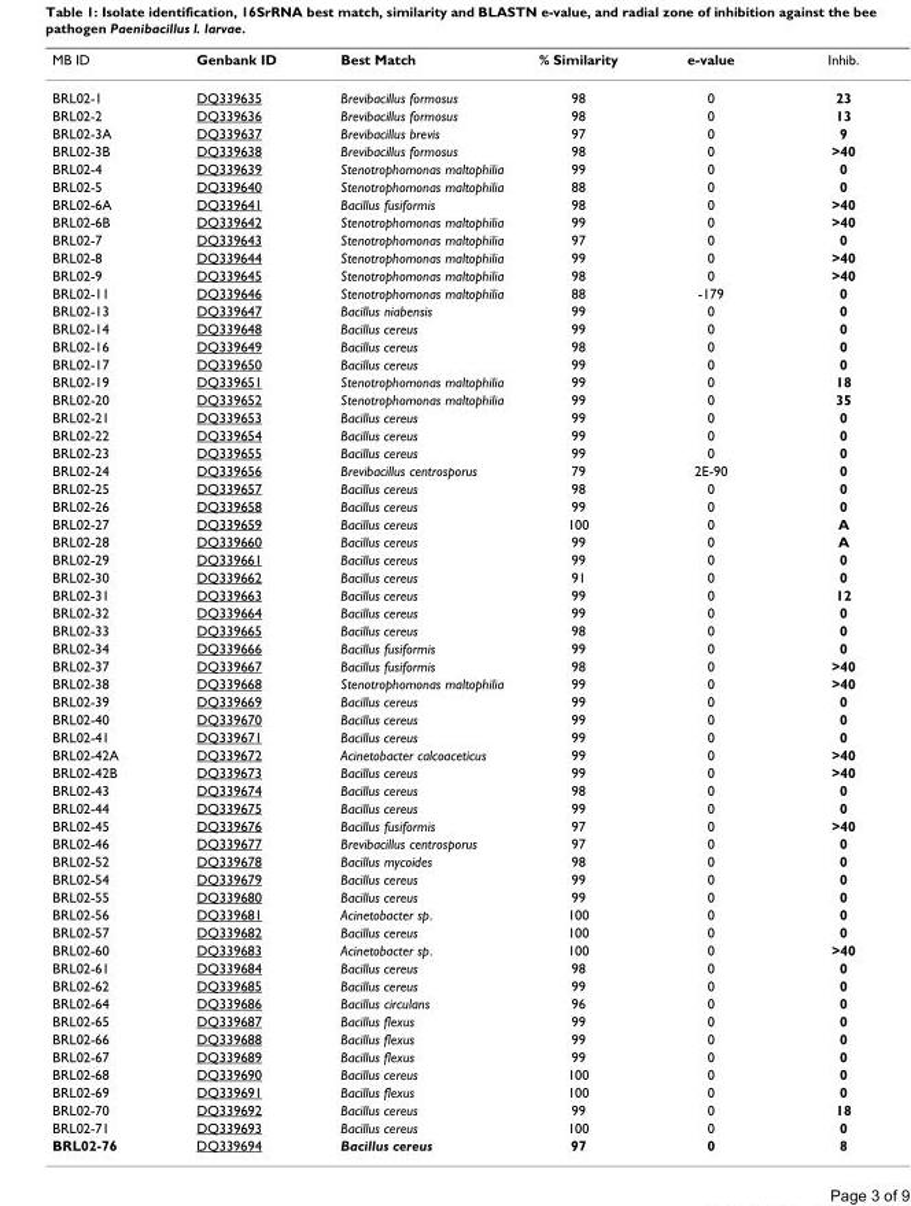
<table><thead><tr><td>MB ID</td><td>Genbank ID</td><td>Best Match</td><td>% Similarity</td><td>e-value</td><td>Inhib.</td></tr></thead><tbody><tr><td>BRL02-1</td><td>DQ339635</td><td>Brevibacillus formosus</td><td>98</td><td>0</td><td>23</td></tr><tr><td>BRL02-2</td><td>DQ339636</td><td>Brevibacillus formosus</td><td>98</td><td>0</td><td>13</td></tr><tr><td>BRL02-3A</td><td>DQ339637</td><td>Brevibacillus brevis</td><td>97</td><td>0</td><td>9</td></tr><tr><td>BRL02-3B</td><td>DQ339638</td><td>Brevibacillus formosus</td><td>98</td><td>0</td><td>&gt;40</td></tr><tr><td>BRL02-4</td><td>DQ339639</td><td>Stenotrophomonas maltophilia</td><td>99</td><td>0</td><td>0</td></tr><tr><td>BRL02-5</td><td>DQ339640</td><td>Stenotrophomonas maltophilia</td><td>88</td><td>0</td><td>0</td></tr><tr><td>BRL02-6A</td><td>DQ339641</td><td>Bacillus fusiformis</td><td>98</td><td>0</td><td>&gt;40</td></tr><tr><td>BRL02-6B</td><td>DQ339642</td><td>Stenotrophomonas maltophilia</td><td>99</td><td>0</td><td>&gt;40</td></tr><tr><td>BRL02-7</td><td>DQ339643</td><td>Stenotrophomonas maltophilia</td><td>97</td><td>0</td><td>0</td></tr><tr><td>BRL02-8</td><td>DQ339644</td><td>Stenotrophomonas maltophilia</td><td>99</td><td>0</td><td>&gt;40</td></tr><tr><td>BRL02-9</td><td>DQ339645</td><td>Stenotrophomonas maltophilia</td><td>98</td><td>0</td><td>&gt;40</td></tr><tr><td>BRL02-11</td><td>DQ339646</td><td>Stenotrophomonas maltophilia</td><td>88</td><td>-179</td><td>0</td></tr><tr><td>BRL02-13</td><td>DQ339647</td><td>Bacillus niabensis</td><td>99</td><td>0</td><td>0</td></tr><tr><td>BRL02-14</td><td>DQ339648</td><td>Bacillus cereus</td><td>99</td><td>0</td><td>0</td></tr><tr><td>BRL02-16</td><td>DQ339649</td><td>Bacillus cereus</td><td>98</td><td>0</td><td>0</td></tr><tr><td>BRL02-17</td><td>DQ339650</td><td>Bacillus cereus</td><td>99</td><td>0</td><td>0</td></tr><tr><td>BRL02-19</td><td>DQ339651</td><td>Stenotrophomonas maltophilia</td><td>99</td><td>0</td><td>18</td></tr><tr><td>BRL02-20</td><td>DQ339652</td><td>Stenotrophomonas maltophilia</td><td>99</td><td>0</td><td>35</td></tr><tr><td>BRL02-21</td><td>DQ339653</td><td>Bacillus cereus</td><td>99</td><td>0</td><td>0</td></tr><tr><td>BRL02-22</td><td>DQ339654</td><td>Bacillus cereus</td><td>99</td><td>0</td><td>0</td></tr><tr><td>BRL02-23</td><td>DQ339655</td><td>Bacillus cereus</td><td>99</td><td>0</td><td>0</td></tr><tr><td>BRL02-24</td><td>DQ339656</td><td>Brevibacillus centrosporus</td><td>79</td><td>2E-90</td><td>0</td></tr><tr><td>BRL02-25</td><td>DQ339657</td><td>Bacillus cereus</td><td>98</td><td>0</td><td>0</td></tr><tr><td>BRL02-26</td><td>DQ339658</td><td>Bacillus cereus</td><td>99</td><td>0</td><td>0</td></tr><tr><td>BRL02-27</td><td>DQ339659</td><td>Bacillus cereus</td><td>100</td><td>0</td><td>A</td></tr><tr><td>BRL02-28</td><td>DQ339660</td><td>Bacillus cereus</td><td>99</td><td>0</td><td>A</td></tr><tr><td>BRL02-29</td><td>DQ339661</td><td>Bacillus cereus</td><td>99</td><td>0</td><td>0</td></tr><tr><td>BRL02-30</td><td>DQ339662</td><td>Bacillus cereus</td><td>91</td><td>0</td><td>0</td></tr><tr><td>BRL02-31</td><td>DQ339663</td><td>Bacillus cereus</td><td>99</td><td>0</td><td>12</td></tr><tr><td>BRL02-32</td><td>DQ339664</td><td>Bacillus cereus</td><td>99</td><td>0</td><td>0</td></tr><tr><td>BRL02-33</td><td>DQ339665</td><td>Bacillus cereus</td><td>98</td><td>0</td><td>0</td></tr><tr><td>BRL02-34</td><td>DQ339666</td><td>Bacillus fusiformis</td><td>99</td><td>0</td><td>0</td></tr><tr><td>BRL02-37</td><td>DQ339667</td><td>Bacillus fusiformis</td><td>98</td><td>0</td><td>&gt;40</td></tr><tr><td>BRL02-38</td><td>DQ339668</td><td>Stenotrophomonas maltophilia</td><td>99</td><td>0</td><td>&gt;40</td></tr><tr><td>BRL02-39</td><td>DQ339669</td><td>Bacillus cereus</td><td>99</td><td>0</td><td>0</td></tr><tr><td>BRL02-40</td><td>DQ339670</td><td>Bacillus cereus</td><td>99</td><td>0</td><td>0</td></tr><tr><td>BRL02-41</td><td>DQ339671</td><td>Bacillus cereus</td><td>99</td><td>0</td><td>0</td></tr><tr><td>BRL02-42A</td><td>DQ339672</td><td>Acinetobacter calcoaceticus</td><td>99</td><td>0</td><td>&gt;40</td></tr><tr><td>BRL02-42B</td><td>DQ339673</td><td>Bacillus cereus</td><td>99</td><td>0</td><td>&gt;40</td></tr><tr><td>BRL02-43</td><td>DQ339674</td><td>Bacillus cereus</td><td>98</td><td>0</td><td>0</td></tr><tr><td>BRL02-44</td><td>DQ339675</td><td>Bacillus cereus</td><td>99</td><td>0</td><td>0</td></tr><tr><td>BRL02-45</td><td>DQ339676</td><td>Bacillus fusiformis</td><td>97</td><td>0</td><td>&gt;40</td></tr><tr><td>BRL02-46</td><td>DQ339677</td><td>Brevibacillus centrosporus</td><td>97</td><td>0</td><td>0</td></tr><tr><td>BRL02-52</td><td>DQ339678</td><td>Bacillus mycoides</td><td>98</td><td>0</td><td>0</td></tr><tr><td>BRL02-54</td><td>DQ339679</td><td>Bacillus cereus</td><td>99</td><td>0</td><td>0</td></tr><tr><td>BRL02-55</td><td>DQ339680</td><td>Bacillus cereus</td><td>99</td><td>0</td><td>0</td></tr><tr><td>BRL02-56</td><td>DQ339681</td><td>Acinetobacter sp.</td><td>100</td><td>0</td><td>0</td></tr><tr><td>BRL02-57</td><td>DQ339682</td><td>Bacillus cereus</td><td>100</td><td>0</td><td>0</td></tr><tr><td>BRL02-60</td><td>DQ339683</td><td>Acinetobacter sp.</td><td>100</td><td>0</td><td>&gt;40</td></tr><tr><td>BRL02-61</td><td>DQ339684</td><td>Bacillus cereus</td><td>98</td><td>0</td><td>0</td></tr><tr><td>BRL02-62</td><td>DQ339685</td><td>Bacillus cereus</td><td>99</td><td>0</td><td>0</td></tr><tr><td>BRL02-64</td><td>DQ339686</td><td>Bacillus circulans</td><td>96</td><td>0</td><td>0</td></tr><tr><td>BRL02-65</td><td>DQ339687</td><td>Bacillus flexus</td><td>99</td><td>0</td><td>0</td></tr><tr><td>BRL02-66</td><td>DQ339688</td><td>Bacillus flexus</td><td>99</td><td>0</td><td>0</td></tr><tr><td>BRL02-67</td><td>DQ339689</td><td>Bacillus flexus</td><td>99</td><td>0</td><td>0</td></tr><tr><td>BRL02-68</td><td>DQ339690</td><td>Bacillus cereus</td><td>100</td><td>0</td><td>0</td></tr><tr><td>BRL02-69</td><td>DQ339691</td><td>Bacillus flexus</td><td>100</td><td>0</td><td>0</td></tr><tr><td>BRL02-70</td><td>DQ339692</td><td>Bacillus cereus</td><td>99</td><td>0</td><td>18</td></tr><tr><td>BRL02-71</td><td>DQ339693</td><td>Bacillus cereus</td><td>100</td><td>0</td><td>0</td></tr><tr><td>BRL02-76</td><td>DQ339694</td><td>Bacillus cereus</td><td>97</td><td>0</td><td>8</td></tr></tbody></table>